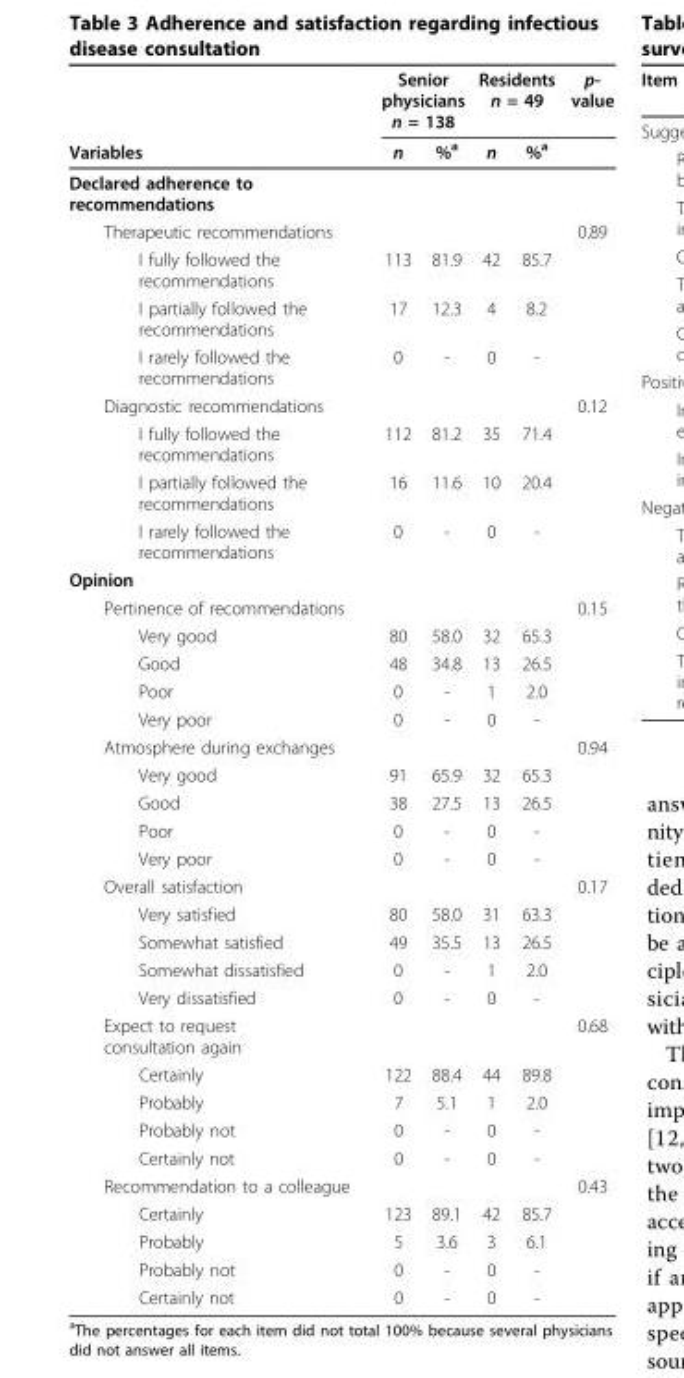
<table><thead><tr><td rowspan="2">Variables</td><td colspan="2">Senior physicians n = 138</td><td colspan="2">Residents n = 49</td><td rowspan="2">p- value</td></tr><tr><td>n</td><td>%<sup>a</sup></td><td>n</td><td>%<sup>a</sup></td></tr></thead><tbody><tr><td colspan="6">Declared adherence to recommendations</td></tr><tr><td>Therapeutic recommendations</td><td></td><td></td><td></td><td></td><td>0.89</td></tr><tr><td>I fully followed the recommendations</td><td>113</td><td>81.9</td><td>42</td><td>85.7</td><td></td></tr><tr><td>I partially followed the recommendations</td><td>17</td><td>12.3</td><td>4</td><td>8.2</td><td></td></tr><tr><td>I rarely followed the recommendations</td><td>0</td><td>-</td><td>0</td><td>-</td><td></td></tr><tr><td>Diagnostic recommendations</td><td></td><td></td><td></td><td></td><td>0.12</td></tr><tr><td>I fully followed the recommendations</td><td>112</td><td>81.2</td><td>35</td><td>71.4</td><td></td></tr><tr><td>I partially followed the recommendations</td><td>16</td><td>11.6</td><td>10</td><td>20.4</td><td></td></tr><tr><td>I rarely followed the recommendations</td><td>0</td><td>-</td><td>0</td><td>-</td><td></td></tr><tr><td colspan="6">Opinion</td></tr><tr><td>Pertinence of recommendations</td><td></td><td></td><td></td><td></td><td>0.15</td></tr><tr><td>Very good</td><td>80</td><td>58.0</td><td>32</td><td>65.3</td><td></td></tr><tr><td>Good</td><td>48</td><td>34.8</td><td>13</td><td>26.5</td><td></td></tr><tr><td>Poor</td><td>0</td><td>-</td><td>1</td><td>2.0</td><td></td></tr><tr><td>Very poor</td><td>0</td><td>-</td><td>0</td><td>-</td><td></td></tr><tr><td>Atmosphere during exchanges</td><td></td><td></td><td></td><td></td><td>0.94</td></tr><tr><td>Very good</td><td>91</td><td>65.9</td><td>32</td><td>65.3</td><td></td></tr><tr><td>Good</td><td>38</td><td>27.5</td><td>13</td><td>26.5</td><td></td></tr><tr><td>Poor</td><td>0</td><td>-</td><td>0</td><td>-</td><td></td></tr><tr><td>Very poor</td><td>0</td><td>-</td><td>0</td><td>-</td><td></td></tr><tr><td>Overall satisfaction</td><td></td><td></td><td></td><td></td><td>0.17</td></tr><tr><td>Very satisfied</td><td>80</td><td>58.0</td><td>31</td><td>63.3</td><td></td></tr><tr><td>Somewhat satisfied</td><td>49</td><td>35.5</td><td>13</td><td>26.5</td><td></td></tr><tr><td>Somewhat dissatisfied</td><td>0</td><td>-</td><td>1</td><td>2.0</td><td></td></tr><tr><td>Very dissatisfied</td><td>0</td><td>-</td><td>0</td><td>-</td><td></td></tr><tr><td>Expect to request consultation again</td><td></td><td></td><td></td><td></td><td>0.68</td></tr><tr><td>Certainly</td><td>122</td><td>88.4</td><td>44</td><td>89.8</td><td></td></tr><tr><td>Probably</td><td>7</td><td>5.1</td><td>1</td><td>2.0</td><td></td></tr><tr><td>Probably not</td><td>0</td><td>-</td><td>0</td><td>-</td><td></td></tr><tr><td>Certainly not</td><td>0</td><td>-</td><td>0</td><td>-</td><td></td></tr><tr><td>Recommendation to a colleague</td><td></td><td></td><td></td><td></td><td>0.43</td></tr><tr><td>Certainly</td><td>123</td><td>89.1</td><td>42</td><td>85.7</td><td></td></tr><tr><td>Probably</td><td>5</td><td>3.6</td><td>3</td><td>6.1</td><td></td></tr><tr><td>Probably not</td><td>0</td><td>-</td><td>0</td><td>-</td><td></td></tr><tr><td>Certainly not</td><td>0</td><td>-</td><td>0</td><td>-</td><td></td></tr></tbody></table>